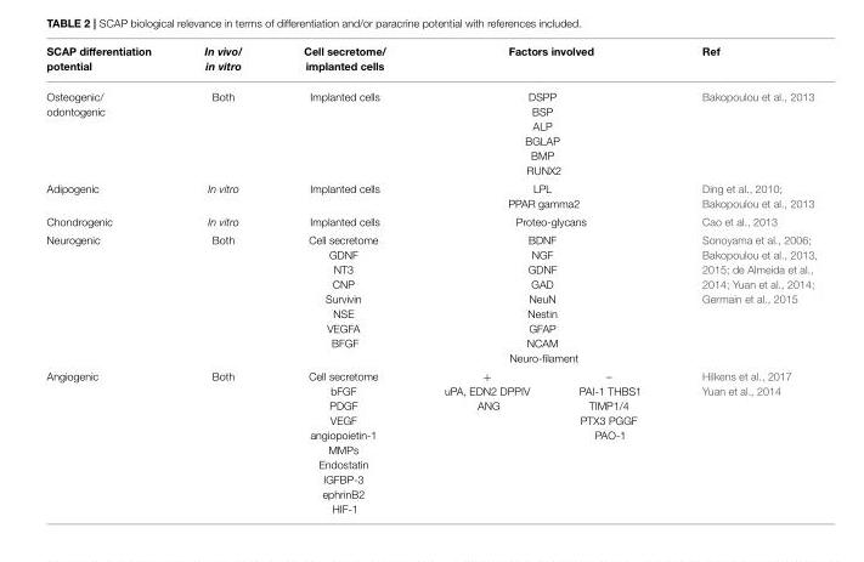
<table><thead><tr><td>SCAP differentiation potential</td><td>In vivo/ in vitro</td><td>Cell secretome/ implanted cells</td><td colspan="2">Factors involved</td><td>Ref</td></tr></thead><tbody><tr><td>Osteogenic/ odontogenic</td><td>Both</td><td>Implanted cells</td><td colspan="2">DSPP BSP ALP BGLAP BMP RUNX2</td><td>Bakopoulou et al., 2013</td></tr><tr><td>Adipogenic</td><td>In vitro</td><td>Implanted cells</td><td colspan="2">LPL PPAR gamma2</td><td>Ding et al., 2010; Bakopoulou et al., 2013</td></tr><tr><td>Chondrogenic</td><td>In vitro</td><td>Implanted cells</td><td colspan="2">Proteo-glycans</td><td>Cao et al., 2013</td></tr><tr><td>Neurogenic</td><td>Both</td><td>Cell secretome GDNF NT3 CNP Survivin NSE VEGFA BFGF</td><td colspan="2">BDNF NGF GDNF GAD NeuN Nestin GFAP NCAM Neuro-filament</td><td>Sonoyama et al., 2006; Bakopoulou et al., 2013, 2015; de Almeida et al., 2014; Yuan et al., 2014; Germain et al., 2015</td></tr><tr><td>Angiogenic</td><td>Both</td><td>Cell secretome bFGF PDGF VEGF angiopoietin-1 MMPs Endostatin IGFBP-3 ephrinB2 HIF-1</td><td>+ uPA, EDN2 DPPIV ANG</td><td>– PAI-1 THBS1 TIMP1/4 PTX3 PGGF PAO-1</td><td>Hilkens et al., 2017 Yuan et al., 2014</td></tr></tbody></table>